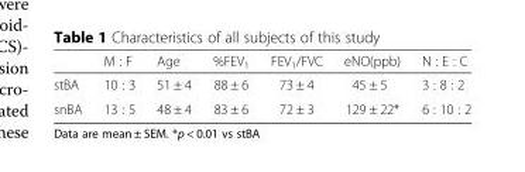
<table><thead><tr><td></td><td>M : F</td><td>Age</td><td>%FEV<sub>1</sub></td><td>FEV<sub>1</sub>/FVC</td><td>eNO(ppb)</td><td>N : E : C</td></tr></thead><tbody><tr><td>stBA</td><td>10 : 3</td><td>51 ± 4</td><td>88 ± 6</td><td>73 ± 4</td><td>45 ± 5</td><td>3 : 8 : 2</td></tr><tr><td>snBA</td><td>13 : 5</td><td>48 ± 4</td><td>83 ± 6</td><td>72 ± 3</td><td>129 ± 22*</td><td>6 : 10 : 2</td></tr></tbody></table>